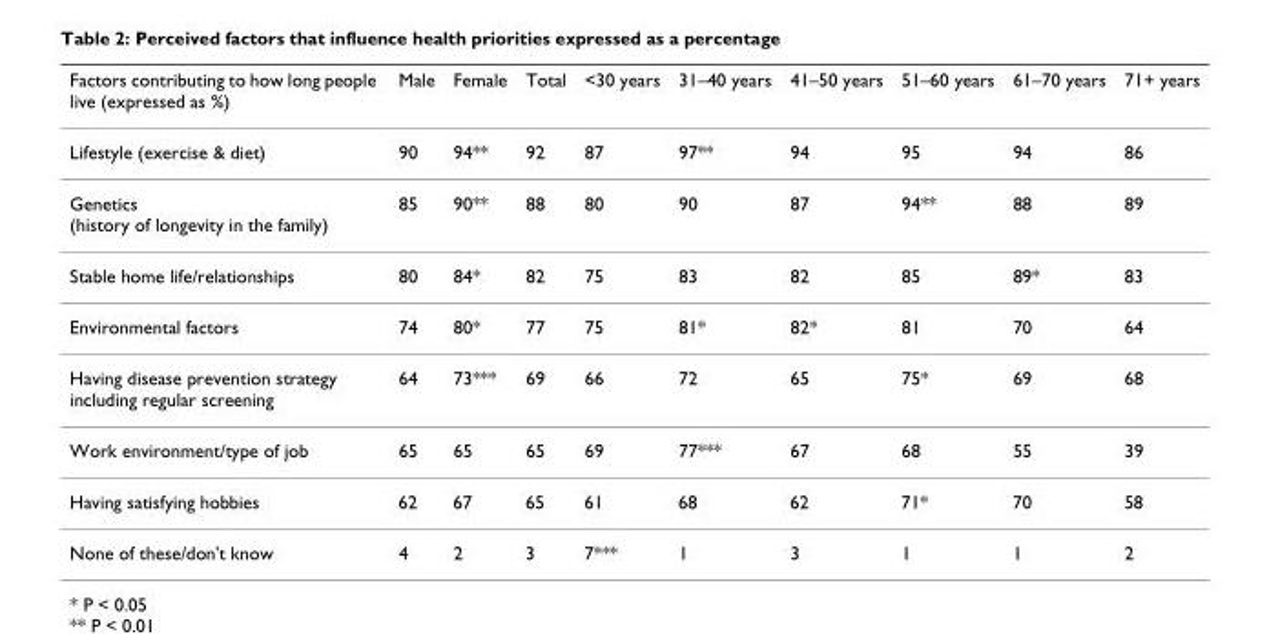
<table><thead><tr><td>Factors contributing to how long people live (expressed as %)</td><td>Male</td><td>Female</td><td>Total</td><td>&lt;30 years</td><td>31–40 years</td><td>41–50 years</td><td>51–60 years</td><td>61–70 years</td><td>71+ years</td></tr></thead><tbody><tr><td>Lifestyle (exercise &amp; diet)</td><td>90</td><td>94**</td><td>92</td><td>87</td><td>97**</td><td>94</td><td>95</td><td>94</td><td>86</td></tr><tr><td>Genetics (history of longevity in the family)</td><td>85</td><td>90**</td><td>88</td><td>80</td><td>90</td><td>87</td><td>94**</td><td>88</td><td>89</td></tr><tr><td>Stable home life/relationships</td><td>80</td><td>84*</td><td>82</td><td>75</td><td>83</td><td>82</td><td>85</td><td>89*</td><td>83</td></tr><tr><td>Environmental factors</td><td>74</td><td>80*</td><td>77</td><td>75</td><td>81*</td><td>82*</td><td>81</td><td>70</td><td>64</td></tr><tr><td>Having disease prevention strategy including regular screening</td><td>64</td><td>73***</td><td>69</td><td>66</td><td>72</td><td>65</td><td>75*</td><td>69</td><td>68</td></tr><tr><td>Work environment/type of job</td><td>65</td><td>65</td><td>65</td><td>69</td><td>77***</td><td>67</td><td>68</td><td>55</td><td>39</td></tr><tr><td>Having satisfying hobbies</td><td>62</td><td>67</td><td>65</td><td>61</td><td>68</td><td>62</td><td>71*</td><td>70</td><td>58</td></tr><tr><td>None of these/don&#x27;t know</td><td>4</td><td>2</td><td>3</td><td>7***</td><td>1</td><td>3</td><td>1</td><td>1</td><td>2</td></tr></tbody></table>